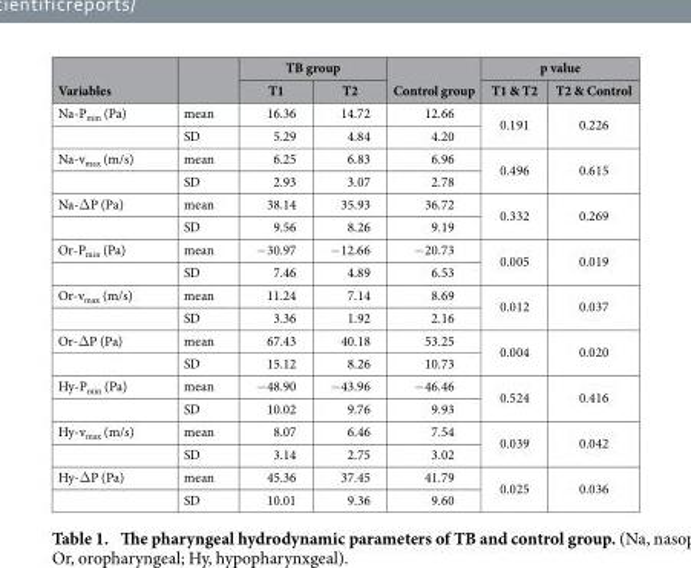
<table><thead><tr><td rowspan="2">Variables</td><td rowspan="2"></td><td colspan="2">TB group</td><td rowspan="2">Control group</td><td colspan="2">p value</td></tr><tr><td>T1</td><td>T2</td><td>T1 &amp; T2</td><td>T2 &amp; Control</td></tr></thead><tbody><tr><td rowspan="2">Na-P<sub>min</sub> (Pa)</td><td>mean</td><td>16.36</td><td>14.72</td><td>12.66</td><td rowspan="2">0.191</td><td rowspan="2">0.226</td></tr><tr><td>SD</td><td>5.29</td><td>4.84</td><td>4.20</td></tr><tr><td rowspan="2">Na-v<sub>max</sub> (m/s)</td><td>mean</td><td>6.25</td><td>6.83</td><td>6.96</td><td rowspan="2">0.496</td><td rowspan="2">0.615</td></tr><tr><td>SD</td><td>2.93</td><td>3.07</td><td>2.78</td></tr><tr><td rowspan="2">Na-Δ P (Pa)</td><td>mean</td><td>38.14</td><td>35.93</td><td>36.72</td><td rowspan="2">0.332</td><td rowspan="2">0.269</td></tr><tr><td>SD</td><td>9.56</td><td>8.26</td><td>9.19</td></tr><tr><td rowspan="2">Or-P<sub>min</sub> (Pa)</td><td>mean</td><td>− 30.97</td><td>− 12.66</td><td>− 20.73</td><td rowspan="2">0.005</td><td rowspan="2">0.019</td></tr><tr><td>SD</td><td>7.46</td><td>4.89</td><td>6.53</td></tr><tr><td rowspan="2">Or-v<sub>max</sub> (m/s)</td><td>mean</td><td>11.24</td><td>7.14</td><td>8.69</td><td rowspan="2">0.012</td><td rowspan="2">0.037</td></tr><tr><td>SD</td><td>3.36</td><td>1.92</td><td>2.16</td></tr><tr><td rowspan="2">Or-Δ P (Pa)</td><td>mean</td><td>67.43</td><td>40.18</td><td>53.25</td><td rowspan="2">0.004</td><td rowspan="2">0.020</td></tr><tr><td>SD</td><td>15.12</td><td>8.26</td><td>10.73</td></tr><tr><td rowspan="2">Hy-P<sub>min</sub> (Pa)</td><td>mean</td><td>− 48.90</td><td>− 43.96</td><td>− 46.46</td><td rowspan="2">0.524</td><td rowspan="2">0.416</td></tr><tr><td>SD</td><td>10.02</td><td>9.76</td><td>9.93</td></tr><tr><td rowspan="2">Hy-v<sub>max</sub> (m/s)</td><td>mean</td><td>8.07</td><td>6.46</td><td>7.54</td><td rowspan="2">0.039</td><td rowspan="2">0.042</td></tr><tr><td>SD</td><td>3.14</td><td>2.75</td><td>3.02</td></tr><tr><td rowspan="2">Hy-Δ P (Pa)</td><td>mean</td><td>45.36</td><td>37.45</td><td>41.79</td><td rowspan="2">0.025</td><td rowspan="2">0.036</td></tr><tr><td>SD</td><td>10.01</td><td>9.36</td><td>9.60</td></tr></tbody></table>